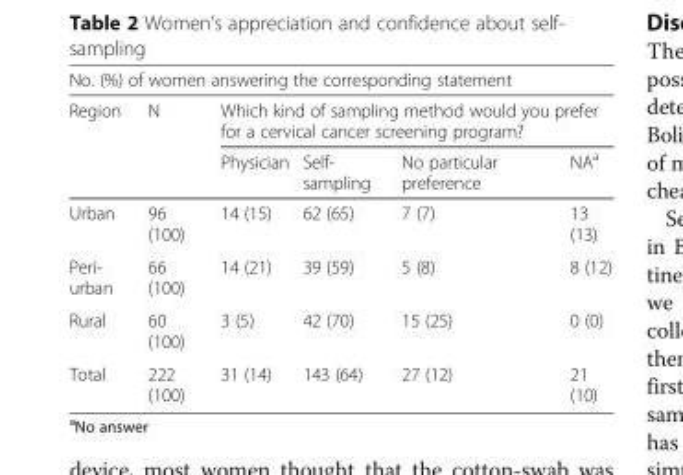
<table><thead><tr><td colspan="6">No. (%) of women answering the corresponding statement</td></tr><tr><td rowspan="2">Region</td><td rowspan="2">N</td><td colspan="4">Which kind of sampling method would you prefer for a cervical cancer screening program?</td></tr><tr><td>Physician</td><td>Self- sampling</td><td>No particular preference</td><td>NA<sup>a</sup></td></tr></thead><tbody><tr><td>Urban</td><td>96 (100)</td><td>14 (15)</td><td>62 (65)</td><td>7 (7)</td><td>13 (13)</td></tr><tr><td>Peri- urban</td><td>66 (100)</td><td>14 (21)</td><td>39 (59)</td><td>5 (8)</td><td>8 (12)</td></tr><tr><td>Rural</td><td>60 (100)</td><td>3 (5)</td><td>42 (70)</td><td>15 (25)</td><td>0 (0)</td></tr><tr><td>Total</td><td>222 (100)</td><td>31 (14)</td><td>143 (64)</td><td>27 (12)</td><td>21 (10)</td></tr></tbody></table>